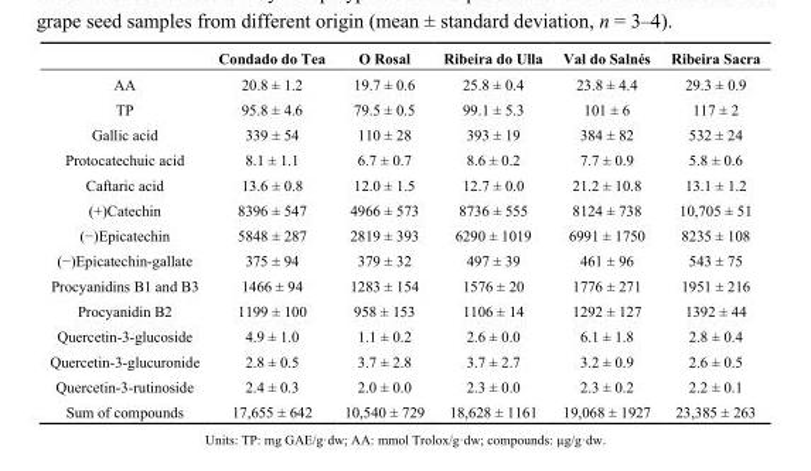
<table><thead><tr><td></td><td>Condado do Tea</td><td>O Rosal</td><td>Ribeira do Ulla</td><td>Val do Salnés</td><td>Ribeira Sacra</td></tr></thead><tbody><tr><td>AA</td><td>20.8 ± 1.2</td><td>19.7 ± 0.6</td><td>25.8 ± 0.4</td><td>23.8 ± 4.4</td><td>29.3 ± 0.9</td></tr><tr><td>TP</td><td>95.8 ± 4.6</td><td>79.5 ± 0.5</td><td>99.1 ± 5.3</td><td>101 ± 6</td><td>117 ± 2</td></tr><tr><td>Gallic acid</td><td>339 ± 54</td><td>110 ± 28</td><td>393 ± 19</td><td>384 ± 82</td><td>532 ± 24</td></tr><tr><td>Protocatechuic acid</td><td>8.1 ± 1.1</td><td>6.7 ± 0.7</td><td>8.6 ± 0.2</td><td>7.7 ± 0.9</td><td>5.8 ± 0.6</td></tr><tr><td>Caftaric acid</td><td>13.6 ± 0.8</td><td>12.0 ± 1.5</td><td>12.7 ± 0.0</td><td>21.2 ± 10.8</td><td>13.1 ± 1.2</td></tr><tr><td>(+)Catechin</td><td>8396 ± 547</td><td>4966 ± 573</td><td>8736 ± 555</td><td>8124 ± 738</td><td>10,705 ± 51</td></tr><tr><td>(−)Epicatechin</td><td>5848 ± 287</td><td>2819 ± 393</td><td>6290 ± 1019</td><td>6991 ± 1750</td><td>8235 ± 108</td></tr><tr><td>(−)Epicatechin-gallate</td><td>375 ± 94</td><td>379 ± 32</td><td>497 ± 39</td><td>461 ± 96</td><td>543 ± 75</td></tr><tr><td>Procyanidins B1 and B3</td><td>1466 ± 94</td><td>1283 ± 154</td><td>1576 ± 20</td><td>1776 ± 271</td><td>1951 ± 216</td></tr><tr><td>Procyanidin B2</td><td>1199 ± 100</td><td>958 ± 153</td><td>1106 ± 14</td><td>1292 ± 127</td><td>1392 ± 44</td></tr><tr><td>Quercetin-3-glucoside</td><td>4.9 ± 1.0</td><td>1.1 ± 0.2</td><td>2.6 ± 0.0</td><td>6.1 ± 1.8</td><td>2.8 ± 0.4</td></tr><tr><td>Quercetin-3-glucuronide</td><td>2.8 ± 0.5</td><td>3.7 ± 2.8</td><td>3.7 ± 2.7</td><td>3.2 ± 0.9</td><td>2.6 ± 0.5</td></tr><tr><td>Quercetin-3-rutinoside</td><td>2.4 ± 0.3</td><td>2.0 ± 0.0</td><td>2.3 ± 0.0</td><td>2.3 ± 0.2</td><td>2.2 ± 0.1</td></tr><tr><td>Sum of compounds</td><td>17,655 ± 642</td><td>10,540 ± 729</td><td>18,628 ± 1161</td><td>19,068 ± 1927</td><td>23,385 ± 263</td></tr></tbody></table>